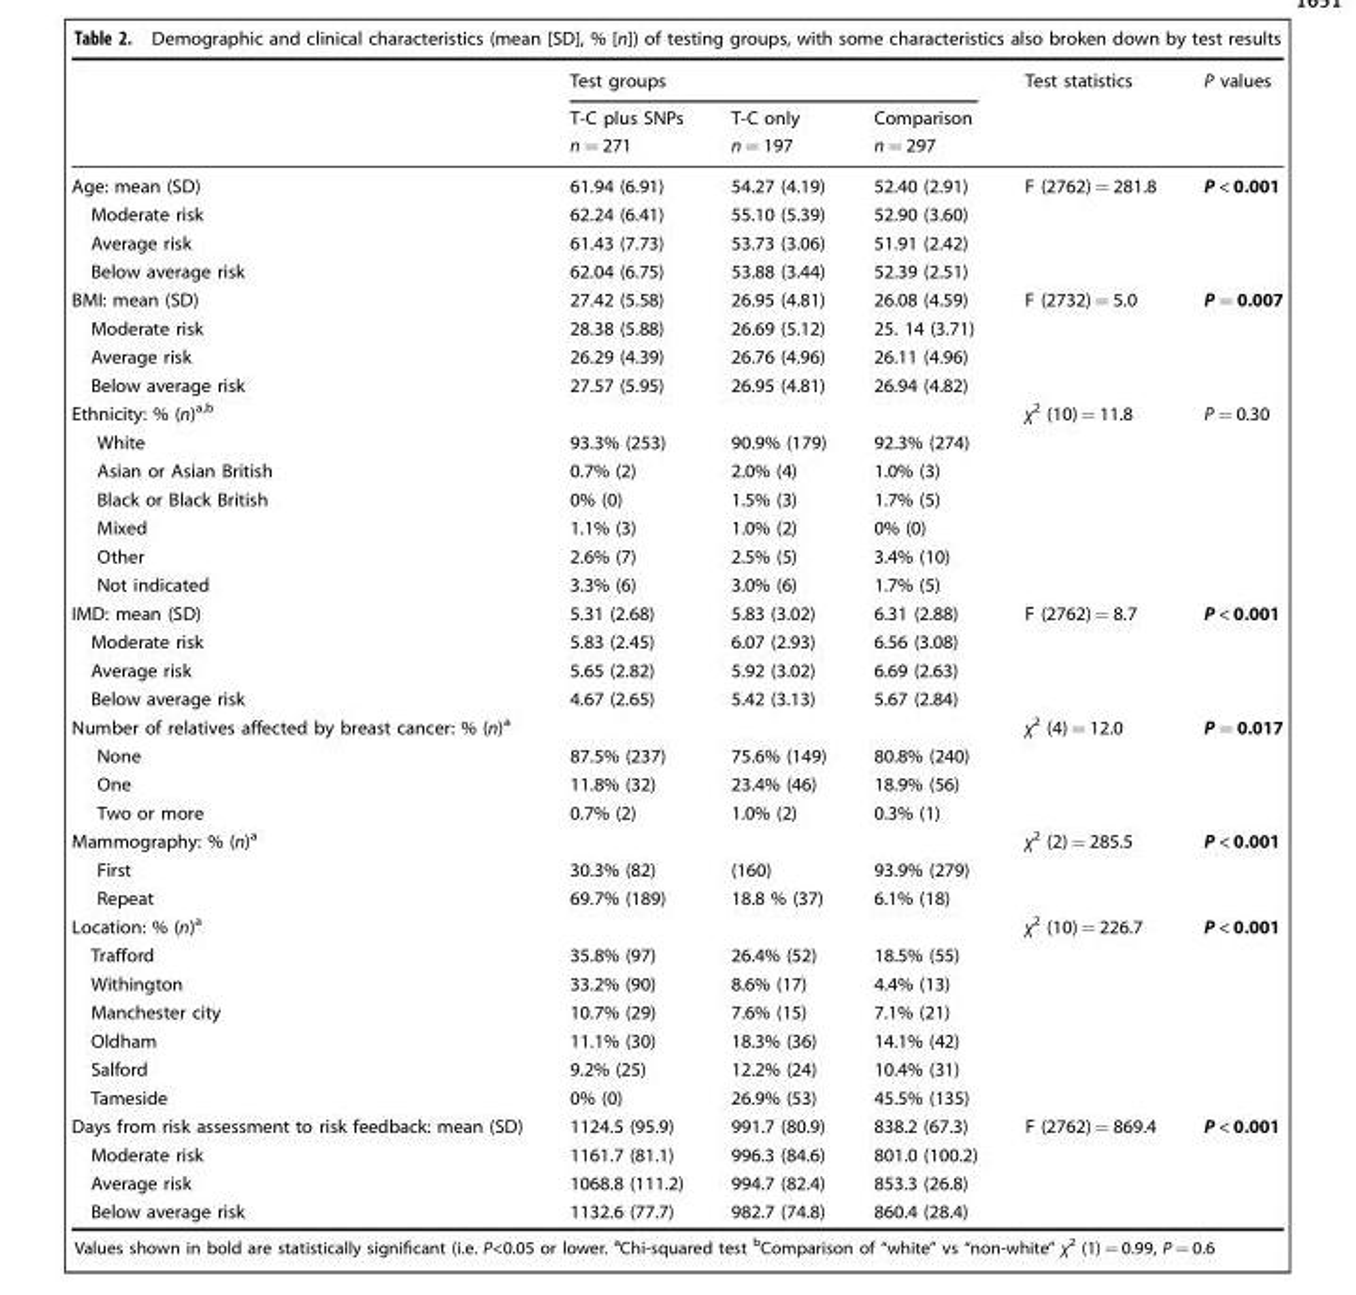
<table><thead><tr><td rowspan="3"></td><td colspan="3">Test groups</td><td rowspan="3">Test statistics</td><td rowspan="3">P values</td></tr><tr><td rowspan="2">T-C plus SNPs n = 271</td><td rowspan="2">T-C only n = 197</td><td rowspan="2">Comparison n = 297</td></tr><tr></tr></thead><tbody><tr><td>Age: mean (SD)</td><td>61.94 (6.91)</td><td>54.27 (4.19)</td><td>52.40 (2.91)</td><td>F (2762) = 281.8</td><td>P &lt; 0.001</td></tr><tr><td>Moderate risk</td><td>62.24 (6.41)</td><td>55.10 (5.39)</td><td>52.90 (3.60)</td><td></td><td></td></tr><tr><td>Average risk</td><td>61.43 (7.73)</td><td>53.73 (3.06)</td><td>51.91 (2.42)</td><td></td><td></td></tr><tr><td>Below average risk</td><td>62.04 (6.75)</td><td>53.88 (3.44)</td><td>52.39 (2.51)</td><td></td><td></td></tr><tr><td>BMI: mean (SD)</td><td>27.42 (5.58)</td><td>26.95 (4.81)</td><td>26.08 (4.59)</td><td>F (2732) = 5.0</td><td>P = 0.007</td></tr><tr><td>Moderate risk</td><td>28.38 (5.88)</td><td>26.69 (5.12)</td><td>25. 14 (3.71)</td><td></td><td></td></tr><tr><td>Average risk</td><td>26.29 (4.39)</td><td>26.76 (4.96)</td><td>26.11 (4.96)</td><td></td><td></td></tr><tr><td>Below average risk</td><td>27.57 (5.95)</td><td>26.95 (4.81)</td><td>26.94 (4.82)</td><td></td><td></td></tr><tr><td>Ethnicity: % (n)<sup>a,b</sup></td><td></td><td></td><td></td><td>χ<sup>2</sup> (10) = 11.8</td><td>P = 0.30</td></tr><tr><td>White</td><td>93.3% (253)</td><td>90.9% (179)</td><td>92.3% (274)</td><td></td><td></td></tr><tr><td>Asian or Asian British</td><td>0.7% (2)</td><td>2.0% (4)</td><td>1.0% (3)</td><td></td><td></td></tr><tr><td>Black or Black British</td><td>0% (0)</td><td>1.5% (3)</td><td>1.7% (5)</td><td></td><td></td></tr><tr><td>Mixed</td><td>1.1% (3)</td><td>1.0% (2)</td><td>0% (0)</td><td></td><td></td></tr><tr><td>Other</td><td>2.6% (7)</td><td>2.5% (5)</td><td>3.4% (10)</td><td></td><td></td></tr><tr><td>Not indicated</td><td>3.3% (6)</td><td>3.0% (6)</td><td>1.7% (5)</td><td></td><td></td></tr><tr><td>IMD: mean (SD)</td><td>5.31 (2.68)</td><td>5.83 (3.02)</td><td>6.31 (2.88)</td><td>F (2762) = 8.7</td><td>P &lt; 0.001</td></tr><tr><td>Moderate risk</td><td>5.83 (2.45)</td><td>6.07 (2.93)</td><td>6.56 (3.08)</td><td></td><td></td></tr><tr><td>Average risk</td><td>5.65 (2.82)</td><td>5.92 (3.02)</td><td>6.69 (2.63)</td><td></td><td></td></tr><tr><td>Below average risk</td><td>4.67 (2.65)</td><td>5.42 (3.13)</td><td>5.67 (2.84)</td><td></td><td></td></tr><tr><td>Number of relatives affected by breast cancer: % (n)<sup>a</sup></td><td></td><td></td><td></td><td>χ<sup>2</sup> (4) = 12.0</td><td>P = 0.017</td></tr><tr><td>None</td><td>87.5% (237)</td><td>75.6% (149)</td><td>80.8% (240)</td><td></td><td></td></tr><tr><td>One</td><td>11.8% (32)</td><td>23.4% (46)</td><td>18.9% (56)</td><td></td><td></td></tr><tr><td>Two or more</td><td>0.7% (2)</td><td>1.0% (2)</td><td>0.3% (1)</td><td></td><td></td></tr><tr><td>Mammography: % (n)<sup>a</sup></td><td></td><td></td><td></td><td>χ<sup>2</sup> (2) = 285.5</td><td>P &lt; 0.001</td></tr><tr><td>First</td><td>30.3% (82)</td><td>(160)</td><td>93.9% (279)</td><td></td><td></td></tr><tr><td>Repeat</td><td>69.7% (189)</td><td>18.8 % (37)</td><td>6.1% (18)</td><td></td><td></td></tr><tr><td>Location: % (n)<sup>a</sup></td><td></td><td></td><td></td><td>χ<sup>2</sup> (10) = 226.7</td><td>P &lt; 0.001</td></tr><tr><td>Trafford</td><td>35.8% (97)</td><td>26.4% (52)</td><td>18.5% (55)</td><td></td><td></td></tr><tr><td>Withington</td><td>33.2% (90)</td><td>8.6% (17)</td><td>4.4% (13)</td><td></td><td></td></tr><tr><td>Manchester city</td><td>10.7% (29)</td><td>7.6% (15)</td><td>7.1% (21)</td><td></td><td></td></tr><tr><td>Oldham</td><td>11.1% (30)</td><td>18.3% (36)</td><td>14.1% (42)</td><td></td><td></td></tr><tr><td>Salford</td><td>9.2% (25)</td><td>12.2% (24)</td><td>10.4% (31)</td><td></td><td></td></tr><tr><td>Tameside</td><td>0% (0)</td><td>26.9% (53)</td><td>45.5% (135)</td><td></td><td></td></tr><tr><td>Days from risk assessment to risk feedback: mean (SD)</td><td>1124.5 (95.9)</td><td>991.7 (80.9)</td><td>838.2 (67.3)</td><td>F (2762) = 869.4</td><td>P &lt; 0.001</td></tr><tr><td>Moderate risk</td><td>1161.7 (81.1)</td><td>996.3 (84.6)</td><td>801.0 (100.2)</td><td></td><td></td></tr><tr><td>Average risk</td><td>1068.8 (111.2)</td><td>994.7 (82.4)</td><td>853.3 (26.8)</td><td></td><td></td></tr><tr><td>Below average risk</td><td>1132.6 (77.7)</td><td>982.7 (74.8)</td><td>860.4 (28.4)</td><td></td><td></td></tr></tbody></table>